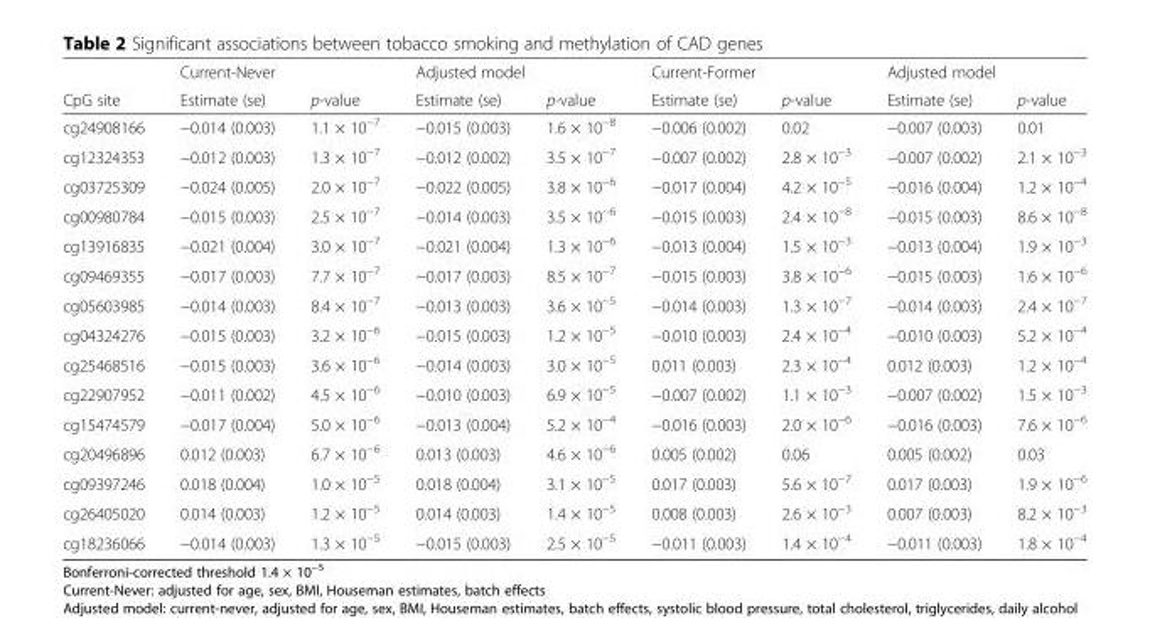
<table><thead><tr><td rowspan="2">CpG site</td><td colspan="2">Current-Never</td><td colspan="2">Adjusted model</td><td colspan="2">Current-Former</td><td colspan="2">Adjusted model</td></tr><tr><td>Estimate (se)</td><td>p-value</td><td>Estimate (se)</td><td>p-value</td><td>Estimate (se)</td><td>p-value</td><td>Estimate (se)</td><td>p-value</td></tr></thead><tbody><tr><td>cg24908166</td><td>−0.014 (0.003)</td><td>1.1 × 10<sup>−7</sup></td><td>−0.015 (0.003)</td><td>1.6 × 10<sup>−8</sup></td><td>−0.006 (0.002)</td><td>0.02</td><td>−0.007 (0.003)</td><td>0.01</td></tr><tr><td>cg12324353</td><td>−0.012 (0.003)</td><td>1.3 × 10<sup>−7</sup></td><td>−0.012 (0.002)</td><td>3.5 × 10<sup>−7</sup></td><td>−0.007 (0.002)</td><td>2.8 × 10<sup>−3</sup></td><td>−0.007 (0.002)</td><td>2.1 × 10<sup>−3</sup></td></tr><tr><td>cg03725309</td><td>−0.024 (0.005)</td><td>2.0 × 10<sup>−7</sup></td><td>−0.022 (0.005)</td><td>3.8 × 10<sup>−6</sup></td><td>−0.017 (0.004)</td><td>4.2 × 10<sup>−5</sup></td><td>−0.016 (0.004)</td><td>1.2 × 10<sup>−4</sup></td></tr><tr><td>cg00980784</td><td>−0.015 (0.003)</td><td>2.5 × 10<sup>−7</sup></td><td>−0.014 (0.003)</td><td>3.5 × 10<sup>−6</sup></td><td>−0.015 (0.003)</td><td>2.4 × 10<sup>−8</sup></td><td>−0.015 (0.003)</td><td>8.6 × 10<sup>−8</sup></td></tr><tr><td>cg13916835</td><td>−0.021 (0.004)</td><td>3.0 × 10<sup>−7</sup></td><td>−0.021 (0.004)</td><td>1.3 × 10<sup>−6</sup></td><td>−0.013 (0.004)</td><td>1.5 × 10<sup>−3</sup></td><td>−0.013 (0.004)</td><td>1.9 × 10<sup>−3</sup></td></tr><tr><td>cg09469355</td><td>−0.017 (0.003)</td><td>7.7 × 10<sup>−7</sup></td><td>−0.017 (0.003)</td><td>8.5 × 10<sup>−7</sup></td><td>−0.015 (0.003)</td><td>3.8 × 10<sup>−6</sup></td><td>−0.015 (0.003)</td><td>1.6 × 10<sup>−6</sup></td></tr><tr><td>cg05603985</td><td>−0.014 (0.003)</td><td>8.4 × 10<sup>−7</sup></td><td>−0.013 (0.003)</td><td>3.6 × 10<sup>−5</sup></td><td>−0.014 (0.003)</td><td>1.3 × 10<sup>−7</sup></td><td>−0.014 (0.003)</td><td>2.4 × 10<sup>−7</sup></td></tr><tr><td>cg04324276</td><td>−0.015 (0.003)</td><td>3.2 × 10<sup>−6</sup></td><td>−0.015 (0.003)</td><td>1.2 × 10<sup>−5</sup></td><td>−0.010 (0.003)</td><td>2.4 × 10<sup>−4</sup></td><td>−0.010 (0.003)</td><td>5.2 × 10<sup>−4</sup></td></tr><tr><td>cg25468516</td><td>−0.015 (0.003)</td><td>3.6 × 10<sup>−6</sup></td><td>−0.014 (0.003)</td><td>3.0 × 10<sup>−5</sup></td><td>0.011 (0.003)</td><td>2.3 × 10<sup>−4</sup></td><td>0.012 (0.003)</td><td>1.2 × 10<sup>−4</sup></td></tr><tr><td>cg22907952</td><td>−0.011 (0.002)</td><td>4.5 × 10<sup>−6</sup></td><td>−0.010 (0.003)</td><td>6.9 × 10<sup>−5</sup></td><td>−0.007 (0.002)</td><td>1.1 × 10<sup>−3</sup></td><td>−0.007 (0.002)</td><td>1.5 × 10<sup>−3</sup></td></tr><tr><td>cg15474579</td><td>−0.017 (0.004)</td><td>5.0 × 10<sup>−6</sup></td><td>−0.013 (0.004)</td><td>5.2 × 10<sup>−4</sup></td><td>−0.016 (0.003)</td><td>2.0 × 10<sup>−6</sup></td><td>−0.016 (0.003)</td><td>7.6 × 10<sup>−6</sup></td></tr><tr><td>cg20496896</td><td>0.012 (0.003)</td><td>6.7 × 10<sup>−6</sup></td><td>0.013 (0.003)</td><td>4.6 × 10<sup>−6</sup></td><td>0.005 (0.002)</td><td>0.06</td><td>0.005 (0.002)</td><td>0.03</td></tr><tr><td>cg09397246</td><td>0.018 (0.004)</td><td>1.0 × 10<sup>−5</sup></td><td>0.018 (0.004)</td><td>3.1 × 10<sup>−5</sup></td><td>0.017 (0.003)</td><td>5.6 × 10<sup>−7</sup></td><td>0.017 (0.003)</td><td>1.9 × 10<sup>−6</sup></td></tr><tr><td>cg26405020</td><td>0.014 (0.003)</td><td>1.2 × 10<sup>−5</sup></td><td>0.014 (0.003)</td><td>1.4 × 10<sup>−5</sup></td><td>0.008 (0.003)</td><td>2.6 × 10<sup>−3</sup></td><td>0.007 (0.003)</td><td>8.2 × 10<sup>−3</sup></td></tr><tr><td>cg18236066</td><td>−0.014 (0.003)</td><td>1.3 × 10<sup>−5</sup></td><td>−0.015 (0.003)</td><td>2.5 × 10<sup>−5</sup></td><td>−0.011 (0.003)</td><td>1.4 × 10<sup>−4</sup></td><td>−0.011 (0.003)</td><td>1.8 × 10<sup>−4</sup></td></tr></tbody></table>